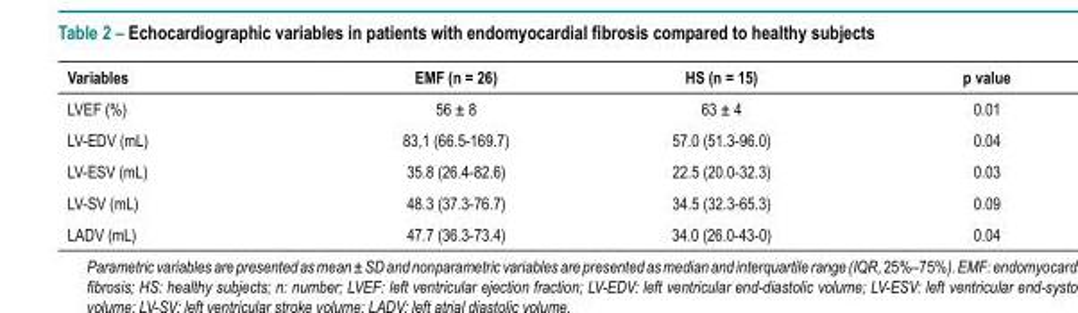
<table><thead><tr><td>Variables</td><td>EMF (n = 26)</td><td>HS (n = 15)</td><td>p value</td></tr></thead><tbody><tr><td>LVEF (%)</td><td>56 ± 8</td><td>63 ± 4</td><td>0.01</td></tr><tr><td>LV-EDV (mL)</td><td>83,1 (66.5-169.7)</td><td>57.0 (51.3-96.0)</td><td>0.04</td></tr><tr><td>LV-ESV (mL)</td><td>35.8 (26.4-82.6)</td><td>22.5 (20.0-32.3)</td><td>0.03</td></tr><tr><td>LV-SV (mL)</td><td>48.3 (37.3-76.7)</td><td>34.5 (32.3-65.3)</td><td>0.09</td></tr><tr><td>LADV (mL)</td><td>47.7 (36.3-73.4)</td><td>34.0 (26.0-43-0)</td><td>0.04</td></tr></tbody></table>